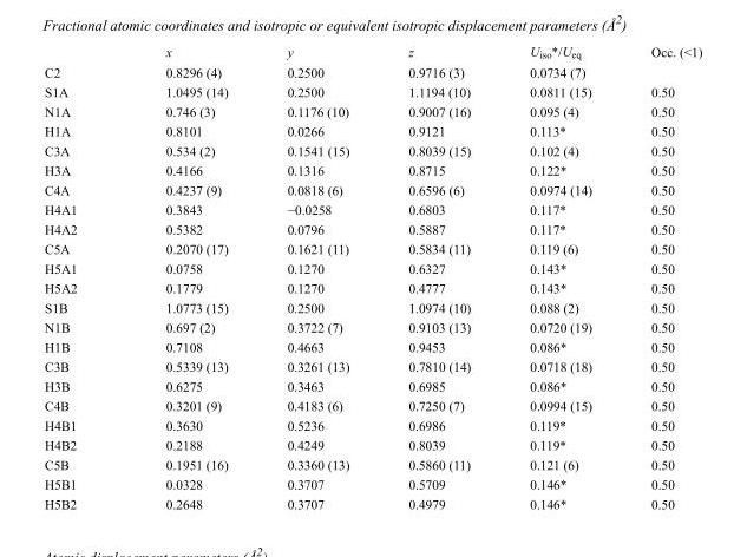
<table><thead><tr><td></td><td>x</td><td>y</td><td>z</td><td>U<sub>iso</sub>*/U<sub>eq</sub></td><td>Occ. (&lt;1)</td></tr></thead><tbody><tr><td>C2</td><td>0.8296 (4)</td><td>0.2500</td><td>0.9716 (3)</td><td>0.0734 (7)</td><td></td></tr><tr><td>S1A</td><td>1.0495 (14)</td><td>0.2500</td><td>1.1194 (10)</td><td>0.0811 (15)</td><td>0.50</td></tr><tr><td>N1A</td><td>0.746 (3)</td><td>0.1176 (10)</td><td>0.9007 (16)</td><td>0.095 (4)</td><td>0.50</td></tr><tr><td>H1A</td><td>0.8101</td><td>0.0266</td><td>0.9121</td><td>0.113*</td><td>0.50</td></tr><tr><td>C3A</td><td>0.534 (2)</td><td>0.1541 (15)</td><td>0.8039 (15)</td><td>0.102 (4)</td><td>0.50</td></tr><tr><td>H3A</td><td>0.4166</td><td>0.1316</td><td>0.8715</td><td>0.122*</td><td>0.50</td></tr><tr><td>C4A</td><td>0.4237 (9)</td><td>0.0818 (6)</td><td>0.6596 (6)</td><td>0.0974 (14)</td><td>0.50</td></tr><tr><td>H4A1</td><td>0.3843</td><td>−0.0258</td><td>0.6803</td><td>0.117*</td><td>0.50</td></tr><tr><td>H4A2</td><td>0.5382</td><td>0.0796</td><td>0.5887</td><td>0.117*</td><td>0.50</td></tr><tr><td>C5A</td><td>0.2070 (17)</td><td>0.1621 (11)</td><td>0.5834 (11)</td><td>0.119 (6)</td><td>0.50</td></tr><tr><td>H5A1</td><td>0.0758</td><td>0.1270</td><td>0.6327</td><td>0.143*</td><td>0.50</td></tr><tr><td>H5A2</td><td>0.1779</td><td>0.1270</td><td>0.4777</td><td>0.143*</td><td>0.50</td></tr><tr><td>S1B</td><td>1.0773 (15)</td><td>0.2500</td><td>1.0974 (10)</td><td>0.088 (2)</td><td>0.50</td></tr><tr><td>N1B</td><td>0.697 (2)</td><td>0.3722 (7)</td><td>0.9103 (13)</td><td>0.0720 (19)</td><td>0.50</td></tr><tr><td>H1B</td><td>0.7108</td><td>0.4663</td><td>0.9453</td><td>0.086*</td><td>0.50</td></tr><tr><td>C3B</td><td>0.5339 (13)</td><td>0.3261 (13)</td><td>0.7810 (14)</td><td>0.0718 (18)</td><td>0.50</td></tr><tr><td>H3B</td><td>0.6275</td><td>0.3463</td><td>0.6985</td><td>0.086*</td><td>0.50</td></tr><tr><td>C4B</td><td>0.3201 (9)</td><td>0.4183 (6)</td><td>0.7250 (7)</td><td>0.0994 (15)</td><td>0.50</td></tr><tr><td>H4B1</td><td>0.3630</td><td>0.5236</td><td>0.6986</td><td>0.119*</td><td>0.50</td></tr><tr><td>H4B2</td><td>0.2188</td><td>0.4249</td><td>0.8039</td><td>0.119*</td><td>0.50</td></tr><tr><td>C5B</td><td>0.1951 (16)</td><td>0.3360 (13)</td><td>0.5860 (11)</td><td>0.121 (6)</td><td>0.50</td></tr><tr><td>H5B1</td><td>0.0328</td><td>0.3707</td><td>0.5709</td><td>0.146*</td><td>0.50</td></tr><tr><td>H5B2</td><td>0.2648</td><td>0.3707</td><td>0.4979</td><td>0.146*</td><td>0.50</td></tr></tbody></table>